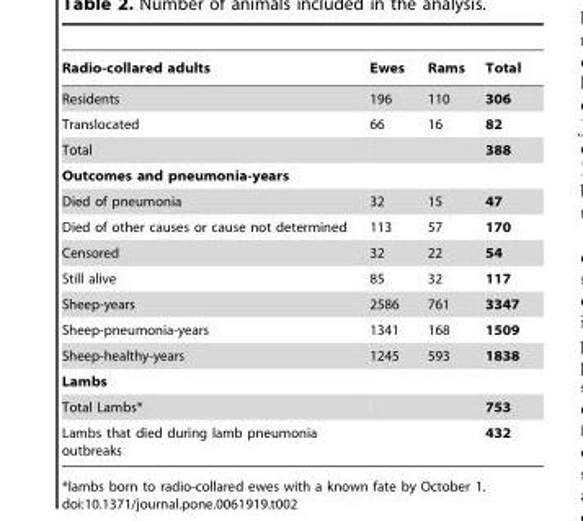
<table><thead><tr><td>Radio-collared adults</td><td>Ewes</td><td>Rams</td><td>Total</td></tr></thead><tbody><tr><td>Residents</td><td>196</td><td>110</td><td>306</td></tr><tr><td>Translocated</td><td>66</td><td>16</td><td>82</td></tr><tr><td>Total</td><td></td><td></td><td>388</td></tr><tr><td colspan="4">Outcomes and pneumonia-years</td></tr><tr><td>Died of pneumonia</td><td>32</td><td>15</td><td>47</td></tr><tr><td>Died of other causes or cause not determined</td><td>113</td><td>57</td><td>170</td></tr><tr><td>Censored</td><td>32</td><td>22</td><td>54</td></tr><tr><td>Still alive</td><td>85</td><td>32</td><td>117</td></tr><tr><td>Sheep-years</td><td>2586</td><td>761</td><td>3347</td></tr><tr><td>Sheep-pneumonia-years</td><td>1341</td><td>168</td><td>1509</td></tr><tr><td>Sheep-healthy-years</td><td>1245</td><td>593</td><td>1838</td></tr><tr><td colspan="4">Lambs</td></tr><tr><td>Total Lambs*</td><td></td><td></td><td>753</td></tr><tr><td>Lambs that died during lamb pneumonia outbreaks</td><td></td><td></td><td>432</td></tr></tbody></table>